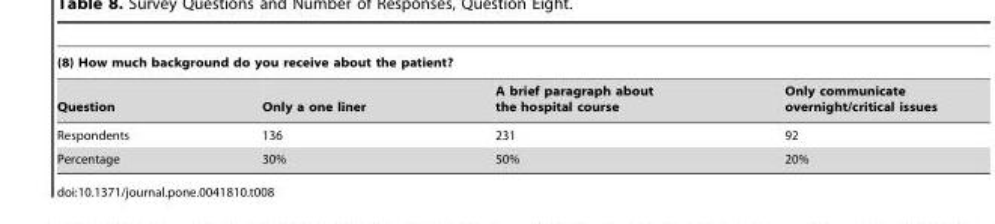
<table><thead><tr><td colspan="4">(8) How much background do you receive about the patient?</td></tr><tr><td>Question</td><td>Only a one liner</td><td>A brief paragraph about the hospital course</td><td>Only communicate overnight/critical issues</td></tr></thead><tbody><tr><td>Respondents</td><td>136</td><td>231</td><td>92</td></tr><tr><td>Percentage</td><td>30%</td><td>50%</td><td>20%</td></tr></tbody></table>